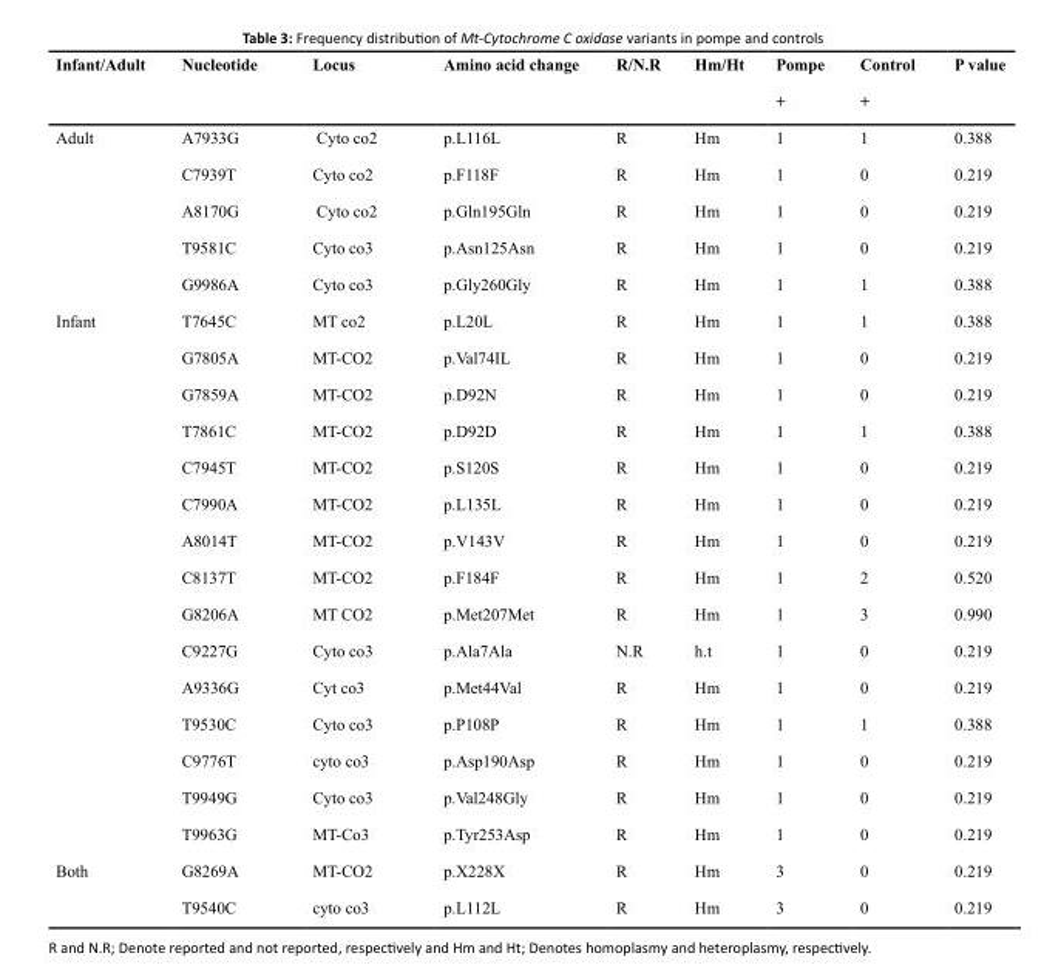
<table><thead><tr><td rowspan="2">Infant/Adult</td><td rowspan="2">Nucleotide</td><td rowspan="2">Locus</td><td rowspan="2">Amino acid change</td><td rowspan="2">R/N.R</td><td rowspan="2">Hm/Ht</td><td rowspan="2">Pompe +</td><td rowspan="2">Control +</td><td rowspan="2">P value</td></tr><tr></tr></thead><tbody><tr><td rowspan="5">Adult</td><td>A7933G</td><td>Cyto co2</td><td>p.L116L</td><td>R</td><td>Hm</td><td>1</td><td>1</td><td>0.388</td></tr><tr><td>C7939T</td><td>Cyto co2</td><td>p.F118F</td><td>R</td><td>Hm</td><td>1</td><td>0</td><td>0.219</td></tr><tr><td>A8170G</td><td>Cyto co2</td><td>p.Gln195Gln</td><td>R</td><td>Hm</td><td>1</td><td>0</td><td>0.219</td></tr><tr><td>T9581C</td><td>Cyto co3</td><td>p.Asn125Asn</td><td>R</td><td>Hm</td><td>1</td><td>0</td><td>0.219</td></tr><tr><td>G9986A</td><td>Cyto co3</td><td>p.Gly260Gly</td><td>R</td><td>Hm</td><td>1</td><td>1</td><td>0.388</td></tr><tr><td rowspan="15">Infant</td><td>T7645C</td><td>MT co2</td><td>p.L20L</td><td>R</td><td>Hm</td><td>1</td><td>1</td><td>0.388</td></tr><tr><td>G7805A</td><td>MT-CO2</td><td>p.Val74IL</td><td>R</td><td>Hm</td><td>1</td><td>0</td><td>0.219</td></tr><tr><td>G7859A</td><td>MT-CO2</td><td>p.D92N</td><td>R</td><td>Hm</td><td>1</td><td>0</td><td>0.219</td></tr><tr><td>T7861C</td><td>MT-CO2</td><td>p.D92D</td><td>R</td><td>Hm</td><td>1</td><td>1</td><td>0.388</td></tr><tr><td>C7945T</td><td>MT-CO2</td><td>p.S120S</td><td>R</td><td>Hm</td><td>1</td><td>0</td><td>0.219</td></tr><tr><td>C7990A</td><td>MT-CO2</td><td>p.L135L</td><td>R</td><td>Hm</td><td>1</td><td>0</td><td>0.219</td></tr><tr><td>A8014T</td><td>MT-CO2</td><td>p.V143V</td><td>R</td><td>Hm</td><td>1</td><td>0</td><td>0.219</td></tr><tr><td>C8137T</td><td>MT-CO2</td><td>p.F184F</td><td>R</td><td>Hm</td><td>1</td><td>2</td><td>0.520</td></tr><tr><td>G8206A</td><td>MT CO2</td><td>p.Met207Met</td><td>R</td><td>Hm</td><td>1</td><td>3</td><td>0.990</td></tr><tr><td>C9227G</td><td>Cyto co3</td><td>p.Ala7Ala</td><td>N.R</td><td>h.t</td><td>1</td><td>0</td><td>0.219</td></tr><tr><td>A9336G</td><td>Cyt co3</td><td>p.Met44Val</td><td>R</td><td>Hm</td><td>1</td><td>0</td><td>0.219</td></tr><tr><td>T9530C</td><td>Cyto co3</td><td>p.P108P</td><td>R</td><td>Hm</td><td>1</td><td>1</td><td>0.388</td></tr><tr><td>C9776T</td><td>cyto co3</td><td>p.Asp190Asp</td><td>R</td><td>Hm</td><td>1</td><td>0</td><td>0.219</td></tr><tr><td>T9949G</td><td>Cyto co3</td><td>p.Val248Gly</td><td>R</td><td>Hm</td><td>1</td><td>0</td><td>0.219</td></tr><tr><td>T9963G</td><td>MT-Co3</td><td>p.Tyr253Asp</td><td>R</td><td>Hm</td><td>1</td><td>0</td><td>0.219</td></tr><tr><td rowspan="2">Both</td><td>G8269A</td><td>MT-CO2</td><td>p.X228X</td><td>R</td><td>Hm</td><td>3</td><td>0</td><td>0.219</td></tr><tr><td>T9540C</td><td>cyto co3</td><td>p.L112L</td><td>R</td><td>Hm</td><td>3</td><td>0</td><td>0.219</td></tr></tbody></table>